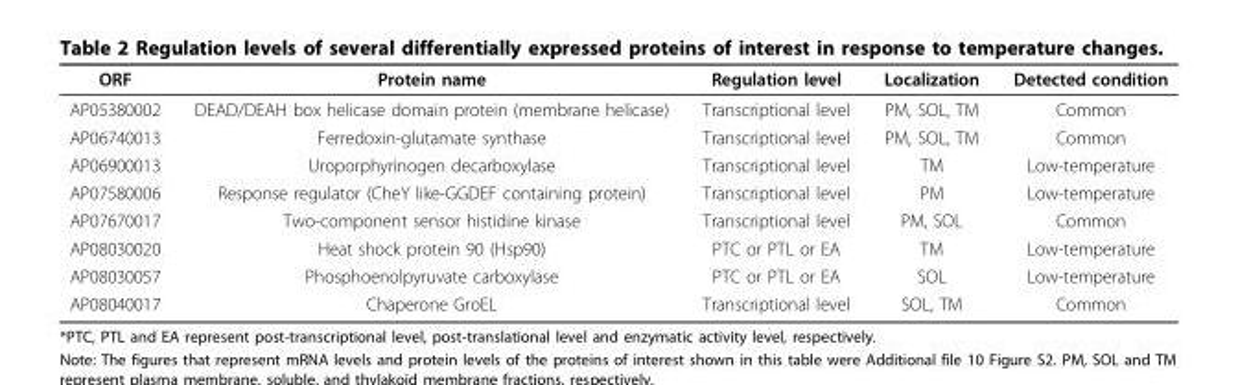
<table><thead><tr><td>ORF</td><td>Protein name</td><td>Regulation level</td><td>Localization</td><td>Detected condition</td></tr></thead><tbody><tr><td>AP05380002</td><td>DEAD/DEAH box helicase domain protein (membrane helicase)</td><td>Transcriptional level</td><td>PM, SOL, TM</td><td>Common</td></tr><tr><td>AP06740013</td><td>Ferredoxin-glutamate synthase</td><td>Transcriptional level</td><td>PM, SOL, TM</td><td>Common</td></tr><tr><td>AP06900013</td><td>Uroporphyrinogen decarboxylase</td><td>Transcriptional level</td><td>TM</td><td>Low-temperature</td></tr><tr><td>AP07580006</td><td>Response regulator (CheY like-GGDEF containing protein)</td><td>Transcriptional level</td><td>PM</td><td>Low-temperature</td></tr><tr><td>AP07670017</td><td>Two-component sensor histidine kinase</td><td>Transcriptional level</td><td>PM, SOL</td><td>Common</td></tr><tr><td>AP08030020</td><td>Heat shock protein 90 (Hsp90)</td><td>PTC or PTL or EA</td><td>TM</td><td>Low-temperature</td></tr><tr><td>AP08030057</td><td>Phosphoenolpyruvate carboxylase</td><td>PTC or PTL or EA</td><td>SOL</td><td>Low-temperature</td></tr><tr><td>AP08040017</td><td>Chaperone GroEL</td><td>Transcriptional level</td><td>SOL, TM</td><td>Common</td></tr></tbody></table>